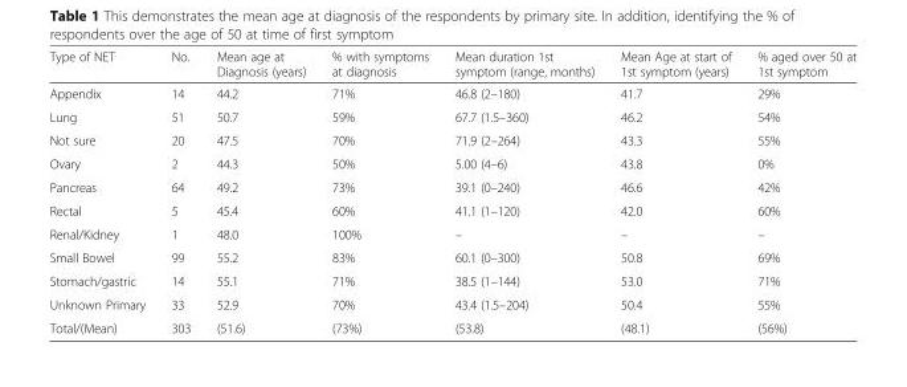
<table><thead><tr><td>Type of NET</td><td>No.</td><td>Mean age at Diagnosis (years)</td><td>% with symptoms at diagnosis</td><td>Mean duration 1st symptom (range, months)</td><td>Mean Age at start of 1st symptom (years)</td><td>% aged over 50 at 1st symptom</td></tr></thead><tbody><tr><td>Appendix</td><td>14</td><td>44.2</td><td>71%</td><td>46.8 (2–180)</td><td>41.7</td><td>29%</td></tr><tr><td>Lung</td><td>51</td><td>50.7</td><td>59%</td><td>67.7 (1.5–360)</td><td>46.2</td><td>54%</td></tr><tr><td>Not sure</td><td>20</td><td>47.5</td><td>70%</td><td>71.9 (2–264)</td><td>43.3</td><td>55%</td></tr><tr><td>Ovary</td><td>2</td><td>44.3</td><td>50%</td><td>5.00 (4–6)</td><td>43.8</td><td>0%</td></tr><tr><td>Pancreas</td><td>64</td><td>49.2</td><td>73%</td><td>39.1 (0–240)</td><td>46.6</td><td>42%</td></tr><tr><td>Rectal</td><td>5</td><td>45.4</td><td>60%</td><td>41.1 (1–120)</td><td>42.0</td><td>60%</td></tr><tr><td>Renal/Kidney</td><td>1</td><td>48.0</td><td>100%</td><td>–</td><td>–</td><td>–</td></tr><tr><td>Small Bowel</td><td>99</td><td>55.2</td><td>83%</td><td>60.1 (0–300)</td><td>50.8</td><td>69%</td></tr><tr><td>Stomach/gastric</td><td>14</td><td>55.1</td><td>71%</td><td>38.5 (1–144)</td><td>53.0</td><td>71%</td></tr><tr><td>Unknown Primary</td><td>33</td><td>52.9</td><td>70%</td><td>43.4 (1.5–204)</td><td>50.4</td><td>55%</td></tr><tr><td>Total/(Mean)</td><td>303</td><td>(51.6)</td><td>(73%)</td><td>(53.8)</td><td>(48.1)</td><td>(56%)</td></tr></tbody></table>